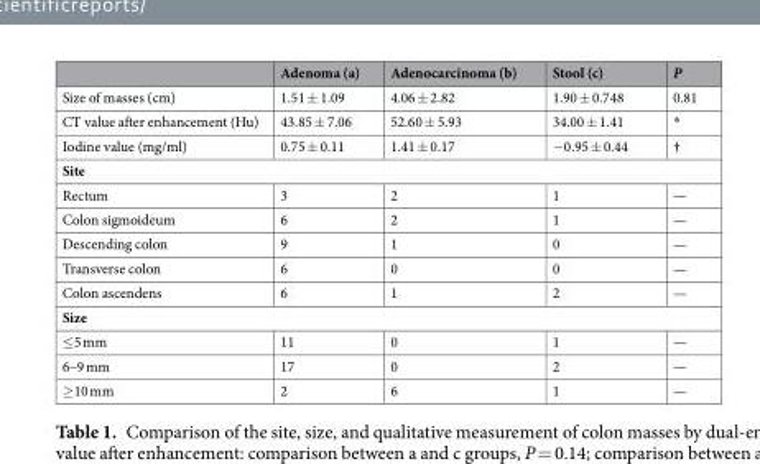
<table><thead><tr><td></td><td>Adenoma (a)</td><td>Adenocarcinoma (b)</td><td>Stool (c)</td><td>P</td></tr></thead><tbody><tr><td>Size of masses (cm)</td><td>1.51 ± 1.09</td><td>4.06 ± 2.82</td><td>1.90 ± 0.748</td><td>0.81</td></tr><tr><td>CT value after enhancement (Hu)</td><td>43.85 ± 7.06</td><td>52.60 ± 5.93</td><td>34.00 ± 1.41</td><td>*</td></tr><tr><td>Iodine value (mg/ml)</td><td>0.75 ± 0.11</td><td>1.41 ± 0.17</td><td>−0.95 ± 0.44</td><td>†</td></tr><tr><td colspan="5">Site</td></tr><tr><td>Rectum</td><td>3</td><td>2</td><td>1</td><td>—</td></tr><tr><td>Colon sigmoideum</td><td>6</td><td>2</td><td>1</td><td>—</td></tr><tr><td>Descending colon</td><td>9</td><td>1</td><td>0</td><td>—</td></tr><tr><td>Transverse colon</td><td>6</td><td>0</td><td>0</td><td>—</td></tr><tr><td>Colon ascendens</td><td>6</td><td>1</td><td>2</td><td>—</td></tr><tr><td colspan="5">Size</td></tr><tr><td>≤5 mm</td><td>11</td><td>0</td><td>1</td><td>—</td></tr><tr><td>6–9 mm</td><td>17</td><td>0</td><td>2</td><td>—</td></tr><tr><td>≥10 mm</td><td>2</td><td>6</td><td>1</td><td>—</td></tr></tbody></table>